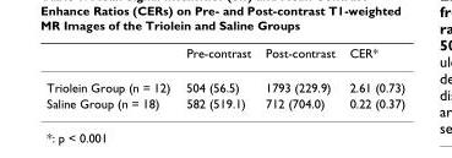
<table><thead><tr><td></td><td>Pre-contrast</td><td>Post-contrast</td><td>CER*</td></tr></thead><tbody><tr><td>Triolein Group (n = 12)</td><td>504 (56.5)</td><td>1793 (229.9)</td><td>2.61 (0.73)</td></tr><tr><td>Saline Group (n = 18)</td><td>582 (519.1)</td><td>712 (704.0)</td><td>0.22 (0.37)</td></tr></tbody></table>